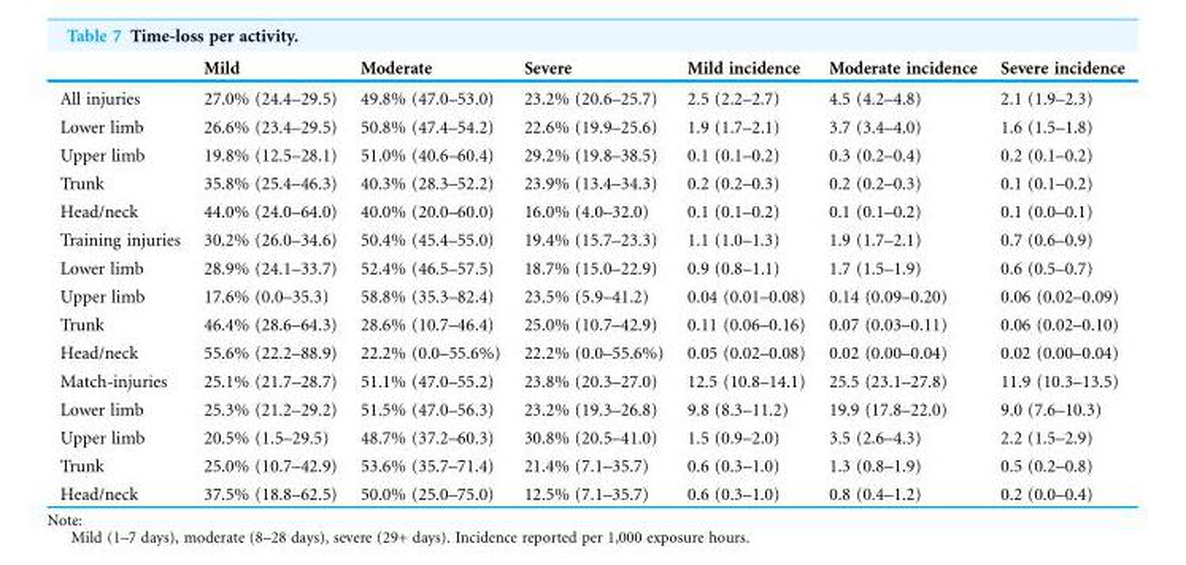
<table><thead><tr><td></td><td>Mild</td><td>Moderate</td><td>Severe</td><td>Mild incidence</td><td>Moderate incidence</td><td>Severe incidence</td></tr></thead><tbody><tr><td>All injuries</td><td>27.0% (24.4–29.5)</td><td>49.8% (47.0–53.0)</td><td>23.2% (20.6–25.7)</td><td>2.5 (2.2–2.7)</td><td>4.5 (4.2–4.8)</td><td>2.1 (1.9–2.3)</td></tr><tr><td>Lower limb</td><td>26.6% (23.4–29.5)</td><td>50.8% (47.4–54.2)</td><td>22.6% (19.9–25.6)</td><td>1.9 (1.7–2.1)</td><td>3.7 (3.4–4.0)</td><td>1.6 (1.5–1.8)</td></tr><tr><td>Upper limb</td><td>19.8% (12.5–28.1)</td><td>51.0% (40.6–60.4)</td><td>29.2% (19.8–38.5)</td><td>0.1 (0.1–0.2)</td><td>0.3 (0.2–0.4)</td><td>0.2 (0.1–0.2)</td></tr><tr><td>Trunk</td><td>35.8% (25.4–46.3)</td><td>40.3% (28.3–52.2)</td><td>23.9% (13.4–34.3)</td><td>0.2 (0.2–0.3)</td><td>0.2 (0.2–0.3)</td><td>0.1 (0.1–0.2)</td></tr><tr><td>Head/neck</td><td>44.0% (24.0–64.0)</td><td>40.0% (20.0–60.0)</td><td>16.0% (4.0–32.0)</td><td>0.1 (0.1–0.2)</td><td>0.1 (0.1–0.2)</td><td>0.1 (0.0–0.1)</td></tr><tr><td>Training injuries</td><td>30.2% (26.0–34.6)</td><td>50.4% (45.4–55.0)</td><td>19.4% (15.7–23.3)</td><td>1.1 (1.0–1.3)</td><td>1.9 (1.7–2.1)</td><td>0.7 (0.6–0.9)</td></tr><tr><td>Lower limb</td><td>28.9% (24.1–33.7)</td><td>52.4% (46.5–57.5)</td><td>18.7% (15.0–22.9)</td><td>0.9 (0.8–1.1)</td><td>1.7 (1.5–1.9)</td><td>0.6 (0.5–0.7)</td></tr><tr><td>Upper limb</td><td>17.6% (0.0–35.3)</td><td>58.8% (35.3–82.4)</td><td>23.5% (5.9–41.2)</td><td>0.04 (0.01–0.08)</td><td>0.14 (0.09–0.20)</td><td>0.06 (0.02–0.09)</td></tr><tr><td>Trunk</td><td>46.4% (28.6–64.3)</td><td>28.6% (10.7–46.4)</td><td>25.0% (10.7–42.9)</td><td>0.11 (0.06–0.16)</td><td>0.07 (0.03–0.11)</td><td>0.06 (0.02–0.10)</td></tr><tr><td>Head/neck</td><td>55.6% (22.2–88.9)</td><td>22.2% (0.0–55.6%)</td><td>22.2% (0.0–55.6%)</td><td>0.05 (0.02–0.08)</td><td>0.02 (0.00–0.04)</td><td>0.02 (0.00–0.04)</td></tr><tr><td>Match-injuries</td><td>25.1% (21.7–28.7)</td><td>51.1% (47.0–55.2)</td><td>23.8% (20.3–27.0)</td><td>12.5 (10.8–14.1)</td><td>25.5 (23.1–27.8)</td><td>11.9 (10.3–13.5)</td></tr><tr><td>Lower limb</td><td>25.3% (21.2–29.2)</td><td>51.5% (47.0–56.3)</td><td>23.2% (19.3–26.8)</td><td>9.8 (8.3–11.2)</td><td>19.9 (17.8–22.0)</td><td>9.0 (7.6–10.3)</td></tr><tr><td>Upper limb</td><td>20.5% (1.5–29.5)</td><td>48.7% (37.2–60.3)</td><td>30.8% (20.5–41.0)</td><td>1.5 (0.9–2.0)</td><td>3.5 (2.6–4.3)</td><td>2.2 (1.5–2.9)</td></tr><tr><td>Trunk</td><td>25.0% (10.7–42.9)</td><td>53.6% (35.7–71.4)</td><td>21.4% (7.1–35.7)</td><td>0.6 (0.3–1.0)</td><td>1.3 (0.8–1.9)</td><td>0.5 (0.2–0.8)</td></tr><tr><td>Head/neck</td><td>37.5% (18.8–62.5)</td><td>50.0% (25.0–75.0)</td><td>12.5% (7.1–35.7)</td><td>0.6 (0.3–1.0)</td><td>0.8 (0.4–1.2)</td><td>0.2 (0.0–0.4)</td></tr></tbody></table>